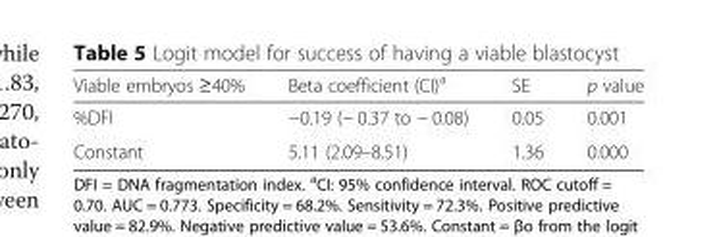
<table><thead><tr><td>Viable embryos ≥40%</td><td>Beta coefficient (CI)<sup>a</sup></td><td>SE</td><td>p value</td></tr></thead><tbody><tr><td>%DFI</td><td>−0.19 (− 0.37 to − 0.08)</td><td>0.05</td><td>0.001</td></tr><tr><td>Constant</td><td>5.11 (2.09–8.51)</td><td>1.36</td><td>0.000</td></tr></tbody></table>